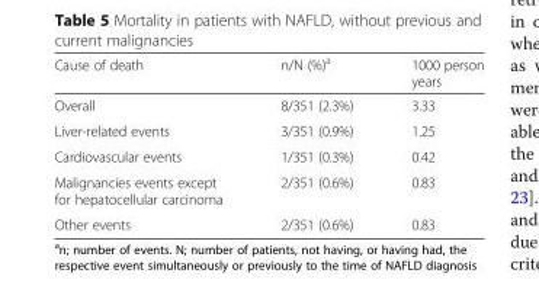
<table><thead><tr><td>Cause of death</td><td>n/N (%)<sup>a</sup></td><td>1000 person years</td></tr></thead><tbody><tr><td>Overall</td><td>8/351 (2.3%)</td><td>3.33</td></tr><tr><td>Liver-related events</td><td>3/351 (0.9%)</td><td>1.25</td></tr><tr><td>Cardiovascular events</td><td>1/351 (0.3%)</td><td>0.42</td></tr><tr><td>Malignancies events except for hepatocellular carcinoma</td><td>2/351 (0.6%)</td><td>0.83</td></tr><tr><td>Other events</td><td>2/351 (0.6%)</td><td>0.83</td></tr></tbody></table>